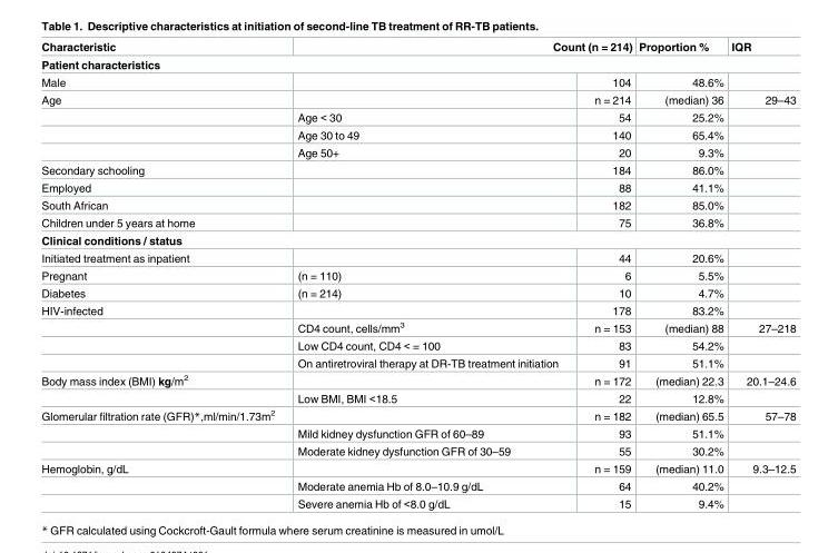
<table><thead><tr><td>Characteristic</td><td colspan="2">Count (n = 214)</td><td>Proportion %</td><td>IQR</td></tr><tr><td colspan="5">Patient characteristics</td></tr><tr><td>Male</td><td></td><td>104</td><td>48.6%</td><td></td></tr></thead><tbody><tr><td rowspan="4">Age</td><td></td><td>n = 214</td><td>(median) 36</td><td>29–43</td></tr><tr><td>Age &lt; 30</td><td>54</td><td>25.2%</td><td></td></tr><tr><td>Age 30 to 49</td><td>140</td><td>65.4%</td><td></td></tr><tr><td>Age 50+</td><td>20</td><td>9.3%</td><td></td></tr><tr><td>Secondary schooling</td><td></td><td>184</td><td>86.0%</td><td></td></tr><tr><td>Employed</td><td></td><td>88</td><td>41.1%</td><td></td></tr><tr><td>South African</td><td></td><td>182</td><td>85.0%</td><td></td></tr><tr><td>Children under 5 years at home</td><td></td><td>75</td><td>36.8%</td><td></td></tr><tr><td colspan="5">Clinical conditions / status</td></tr><tr><td>Initiated treatment as inpatient</td><td></td><td>44</td><td>20.6%</td><td></td></tr><tr><td>Pregnant</td><td>(n = 110)</td><td>6</td><td>5.5%</td><td></td></tr><tr><td>Diabetes</td><td>(n = 214)</td><td>10</td><td>4.7%</td><td></td></tr><tr><td rowspan="4">HIV-infected</td><td></td><td>178</td><td>83.2%</td><td></td></tr><tr><td>CD4 count, cells/mm<sup>3</sup></td><td>n = 153</td><td>(median) 88</td><td>27–218</td></tr><tr><td>Low CD4 count, CD4 &lt; = 100</td><td>83</td><td>54.2%</td><td></td></tr><tr><td>On antiretroviral therapy at DR-TB treatment initiation</td><td>91</td><td>51.1%</td><td></td></tr><tr><td rowspan="2">Body mass index (BMI) kg/m<sup>2</sup></td><td></td><td>n = 172</td><td>(median) 22.3</td><td>20.1–24.6</td></tr><tr><td>Low BMI, BMI &lt;18.5</td><td>22</td><td>12.8%</td><td></td></tr><tr><td rowspan="3">Glomerular filtration rate (GFR)*,ml/min/1.73m<sup>2</sup></td><td></td><td>n = 182</td><td>(median) 65.5</td><td>57–78</td></tr><tr><td>Mild kidney dysfunction GFR of 60–89</td><td>93</td><td>51.1%</td><td></td></tr><tr><td>Moderate kidney dysfunction GFR of 30–59</td><td>55</td><td>30.2%</td><td></td></tr><tr><td rowspan="3">Hemoglobin, g/dL</td><td></td><td>n = 159</td><td>(median) 11.0</td><td>9.3–12.5</td></tr><tr><td>Moderate anemia Hb of 8.0–10.9 g/dL</td><td>64</td><td>40.2%</td><td></td></tr><tr><td>Severe anemia Hb of &lt;8.0 g/dL</td><td>15</td><td>9.4%</td><td></td></tr></tbody></table>